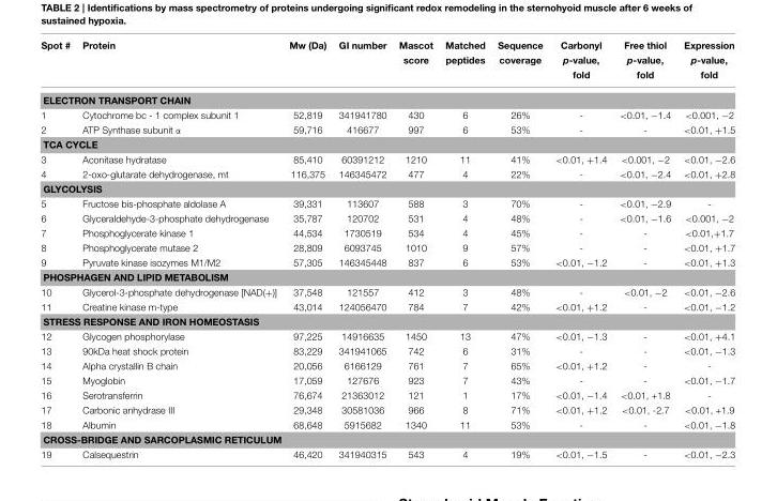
<table><thead><tr><td>Spot #</td><td>Protein</td><td>Mw (Da)</td><td>GI number</td><td>Mascot score</td><td>Matched peptides</td><td>Sequence coverage</td><td>Carbonyl p-value, fold</td><td>Free thiol p-value, fold</td><td>Expression p-value, fold</td></tr></thead><tbody><tr><td colspan="10">ELECTRON TRANSPORT CHAIN</td></tr><tr><td>1</td><td>Cytochrome bc - 1 complex subunit 1</td><td>52,819</td><td>341941780</td><td>430</td><td>6</td><td>26%</td><td>-</td><td>&lt;0.01, −1.4</td><td>&lt;0.001, −2</td></tr><tr><td>2</td><td>ATP Synthase subunit α</td><td>59,716</td><td>416677</td><td>997</td><td>6</td><td>53%</td><td>-</td><td>-</td><td>&lt;0.01, +1.5</td></tr><tr><td colspan="10">TCA CYCLE</td></tr><tr><td>3</td><td>Aconitase hydratase</td><td>85,410</td><td>60391212</td><td>1210</td><td>11</td><td>41%</td><td>&lt;0.01, +1.4</td><td>&lt;0.001, −2</td><td>&lt;0.01, −2.6</td></tr><tr><td>4</td><td>2-oxo-glutarate dehydrogenase, mt</td><td>116,375</td><td>146345472</td><td>477</td><td>4</td><td>22%</td><td>-</td><td>&lt;0.01, −2.4</td><td>&lt;0.01, +2.8</td></tr><tr><td colspan="10">GLYCOLYSIS</td></tr><tr><td>5</td><td>Fructose bis-phosphate aldolase A</td><td>39,331</td><td>113607</td><td>588</td><td>3</td><td>70%</td><td>-</td><td>&lt;0.01, −2.9</td><td>-</td></tr><tr><td>6</td><td>Glyceraldehyde-3-phosphate dehydrogenase</td><td>35,787</td><td>120702</td><td>531</td><td>4</td><td>48%</td><td>-</td><td>&lt;0.01, −1.6</td><td>&lt;0.001, −2</td></tr><tr><td>7</td><td>Phosphoglycerate kinase 1</td><td>44,534</td><td>1730519</td><td>534</td><td>4</td><td>45%</td><td>-</td><td>-</td><td>&lt;0.01,+1.7</td></tr><tr><td>8</td><td>Phosphoglycerate mutase 2</td><td>28,809</td><td>6093745</td><td>1010</td><td>9</td><td>57%</td><td>-</td><td>-</td><td>&lt;0.01, +1.7</td></tr><tr><td>9</td><td>Pyruvate kinase isozymes M1/M2</td><td>57,305</td><td>146345448</td><td>837</td><td>6</td><td>53%</td><td>&lt;0.01, −1.2</td><td>-</td><td>&lt;0.01, +1.3</td></tr><tr><td colspan="10">PHOSPHAGEN AND LIPID METABOLISM</td></tr><tr><td>10</td><td>Glycerol-3-phosphate dehydrogenase [NAD(+)]</td><td>37,548</td><td>121557</td><td>412</td><td>3</td><td>48%</td><td>-</td><td>&lt;0.01, −2</td><td>&lt;0.01, −2.6</td></tr><tr><td>11</td><td>Creatine kinase m-type</td><td>43,014</td><td>124056470</td><td>784</td><td>7</td><td>42%</td><td>&lt;0.01, +1.2</td><td>-</td><td>&lt;0.01, −1.2</td></tr><tr><td colspan="10">STRESS RESPONSE AND IRON HOMEOSTASIS</td></tr><tr><td>12</td><td>Glycogen phosphorylase</td><td>97,225</td><td>14916635</td><td>1450</td><td>13</td><td>47%</td><td>&lt;0.01, −1.3</td><td>-</td><td>&lt;0.01, +4.1</td></tr><tr><td>13</td><td>90kDa heat shock protein</td><td>83,229</td><td>341941065</td><td>742</td><td>6</td><td>31%</td><td>-</td><td>-</td><td>&lt;0.01, −1.3</td></tr><tr><td>14</td><td>Alpha crystallin B chain</td><td>20,056</td><td>6166129</td><td>761</td><td>7</td><td>65%</td><td>&lt;0.01, +1.2</td><td>-</td><td>-</td></tr><tr><td>15</td><td>Myoglobin</td><td>17,059</td><td>127676</td><td>923</td><td>7</td><td>43%</td><td>-</td><td>-</td><td>&lt;0.01, −1.7</td></tr><tr><td>16</td><td>Serotransferrin</td><td>76,674</td><td>21363012</td><td>121</td><td>1</td><td>17%</td><td>&lt;0.01, −1.4</td><td>&lt;0.01, +1.8</td><td>-</td></tr><tr><td>17</td><td>Carbonic anhydrase III</td><td>29,348</td><td>30581036</td><td>966</td><td>8</td><td>71%</td><td>&lt;0.01, +1.2</td><td>&lt;0.01, -2.7</td><td>&lt;0.01, +1.9</td></tr><tr><td>18</td><td>Albumin</td><td>68,648</td><td>5915682</td><td>1340</td><td>11</td><td>53%</td><td>-</td><td>-</td><td>&lt;0.01, −1.8</td></tr><tr><td colspan="10">CROSS-BRIDGE AND SARCOPLASMIC RETICULUM</td></tr><tr><td>19</td><td>Calsequestrin</td><td>46,420</td><td>341940315</td><td>543</td><td>4</td><td>19%</td><td>&lt;0.01, −1.5</td><td>-</td><td>&lt;0.01, −2.3</td></tr></tbody></table>